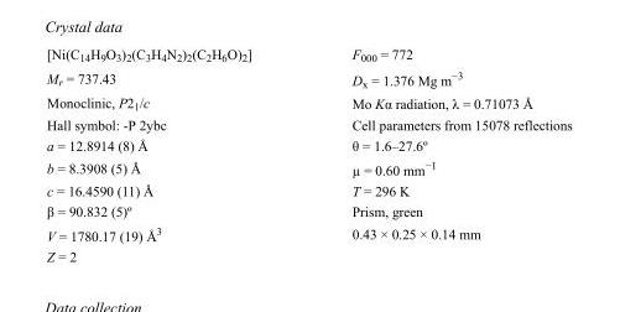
<table><tbody><tr><td>[Ni(C<sub>14</sub>H<sub>9</sub>O<sub>3</sub>)<sub>2</sub>(C<sub>3</sub>H<sub>4</sub>N<sub>2</sub>)<sub>2</sub>(C<sub>2</sub>H<sub>6</sub>O)<sub>2</sub>]</td><td>F000 = 772</td></tr><tr><td>M<sub>r</sub> = 737.43</td><td>D<sub>x</sub> = 1.376 Mg m<sup>−3</sup></td></tr><tr><td>Monoclinic, P2<sub>1</sub>/c</td><td>Mo Kα radiation, λ = 0.71073 Å</td></tr><tr><td>Hall symbol: -P 2ybc</td><td>Cell parameters from 15078 reflections</td></tr><tr><td>a = 12.8914 (8) Å</td><td>θ = 1.6–27.6º</td></tr><tr><td>b = 8.3908 (5) Å</td><td>µ = 0.60 mm<sup>−1</sup></td></tr><tr><td>c = 16.4590 (11) Å</td><td>T = 296 K</td></tr><tr><td>β = 90.832 (5)º</td><td>Prism, green</td></tr><tr><td>V = 1780.17 (19) Å<sup>3</sup></td><td>0.43 × 0.25 × 0.14 mm</td></tr><tr><td>Z = 2</td><td></td></tr></tbody></table>